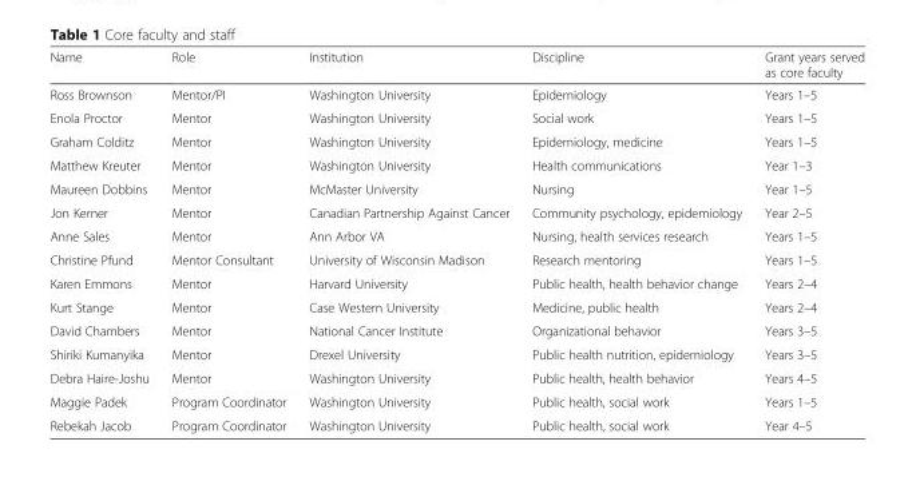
<table><thead><tr><td>Name</td><td>Role</td><td>Institution</td><td>Discipline</td><td>Grant years served as core faculty</td></tr></thead><tbody><tr><td>Ross Brownson</td><td>Mentor/PI</td><td>Washington University</td><td>Epidemiology</td><td>Years 1–5</td></tr><tr><td>Enola Proctor</td><td>Mentor</td><td>Washington University</td><td>Social work</td><td>Years 1–5</td></tr><tr><td>Graham Colditz</td><td>Mentor</td><td>Washington University</td><td>Epidemiology, medicine</td><td>Years 1–5</td></tr><tr><td>Matthew Kreuter</td><td>Mentor</td><td>Washington University</td><td>Health communications</td><td>Year 1–3</td></tr><tr><td>Maureen Dobbins</td><td>Mentor</td><td>McMaster University</td><td>Nursing</td><td>Year 1–5</td></tr><tr><td>Jon Kerner</td><td>Mentor</td><td>Canadian Partnership Against Cancer</td><td>Community psychology, epidemiology</td><td>Year 2–5</td></tr><tr><td>Anne Sales</td><td>Mentor</td><td>Ann Arbor VA</td><td>Nursing, health services research</td><td>Years 1–5</td></tr><tr><td>Christine Pfund</td><td>Mentor Consultant</td><td>University of Wisconsin Madison</td><td>Research mentoring</td><td>Years 1–5</td></tr><tr><td>Karen Emmons</td><td>Mentor</td><td>Harvard University</td><td>Public health, health behavior change</td><td>Years 2–4</td></tr><tr><td>Kurt Stange</td><td>Mentor</td><td>Case Western University</td><td>Medicine, public health</td><td>Years 2–4</td></tr><tr><td>David Chambers</td><td>Mentor</td><td>National Cancer Institute</td><td>Organizational behavior</td><td>Years 3–5</td></tr><tr><td>Shiriki Kumanyika</td><td>Mentor</td><td>Drexel University</td><td>Public health nutrition, epidemiology</td><td>Years 3–5</td></tr><tr><td>Debra Haire-Joshu</td><td>Mentor</td><td>Washington University</td><td>Public health, health behavior</td><td>Years 4–5</td></tr><tr><td>Maggie Padek</td><td>Program Coordinator</td><td>Washington University</td><td>Public health, social work</td><td>Years 1–5</td></tr><tr><td>Rebekah Jacob</td><td>Program Coordinator</td><td>Washington University</td><td>Public health, social work</td><td>Year 4–5</td></tr></tbody></table>